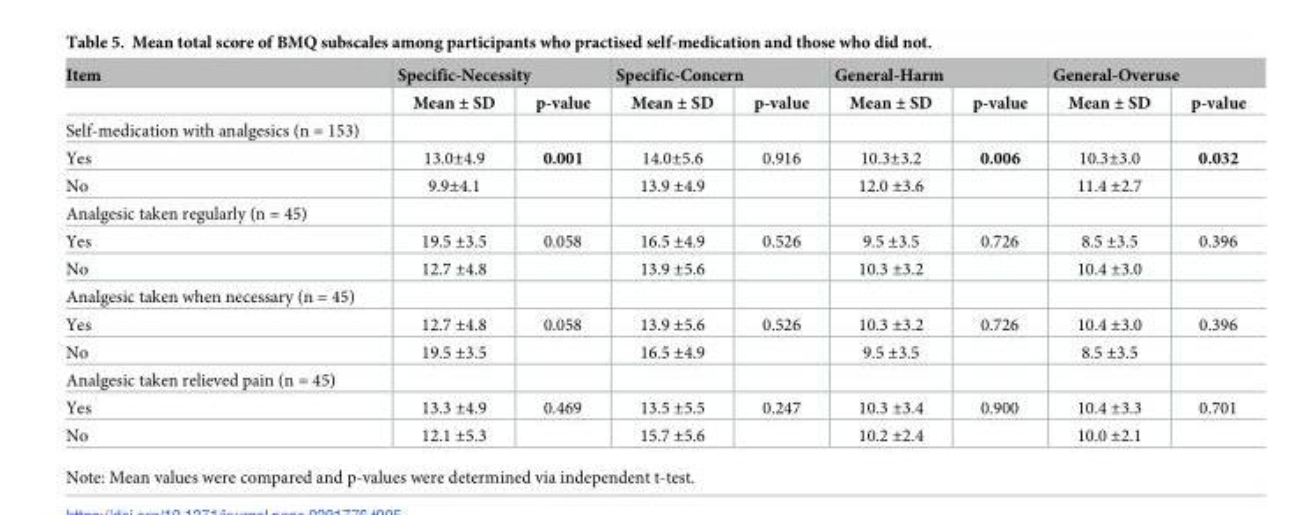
<table><thead><tr><td rowspan="2">Item</td><td colspan="2">Specific-Necessity</td><td colspan="2">Specific-Concern</td><td colspan="2">General-Harm</td><td colspan="2">General-Overuse</td></tr><tr><td>Mean ± SD</td><td>p-value</td><td>Mean ± SD</td><td>p-value</td><td>Mean ± SD</td><td>p-value</td><td>Mean ± SD</td><td>p-value</td></tr></thead><tbody><tr><td colspan="9">Self-medication with analgesics (n = 153)</td></tr><tr><td>Yes</td><td>13.0±4.9</td><td>0.001</td><td>14.0±5.6</td><td>0.916</td><td>10.3±3.2</td><td>0.006</td><td>10.3±3.0</td><td>0.032</td></tr><tr><td>No</td><td>9.9±4.1</td><td></td><td>13.9 ±4.9</td><td></td><td>12.0 ±3.6</td><td></td><td>11.4 ±2.7</td><td></td></tr><tr><td colspan="9">Analgesic taken regularly (n = 45)</td></tr><tr><td>Yes</td><td>19.5 ±3.5</td><td>0.058</td><td>16.5 ±4.9</td><td>0.526</td><td>9.5 ±3.5</td><td>0.726</td><td>8.5 ±3.5</td><td>0.396</td></tr><tr><td>No</td><td>12.7 ±4.8</td><td></td><td>13.9 ±5.6</td><td></td><td>10.3 ±3.2</td><td></td><td>10.4 ±3.0</td><td></td></tr><tr><td colspan="9">Analgesic taken when necessary (n = 45)</td></tr><tr><td>Yes</td><td>12.7 ±4.8</td><td>0.058</td><td>13.9 ±5.6</td><td>0.526</td><td>10.3 ±3.2</td><td>0.726</td><td>10.4 ±3.0</td><td>0.396</td></tr><tr><td>No</td><td>19.5 ±3.5</td><td></td><td>16.5 ±4.9</td><td></td><td>9.5 ±3.5</td><td></td><td>8.5 ±3.5</td><td></td></tr><tr><td colspan="9">Analgesic taken relieved pain (n = 45)</td></tr><tr><td>Yes</td><td>13.3 ±4.9</td><td>0.469</td><td>13.5 ±5.5</td><td>0.247</td><td>10.3 ±3.4</td><td>0.900</td><td>10.4 ±3.3</td><td>0.701</td></tr><tr><td>No</td><td>12.1 ±5.3</td><td></td><td>15.7 ±5.6</td><td></td><td>10.2 ±2.4</td><td></td><td>10.0 ±2.1</td><td></td></tr></tbody></table>